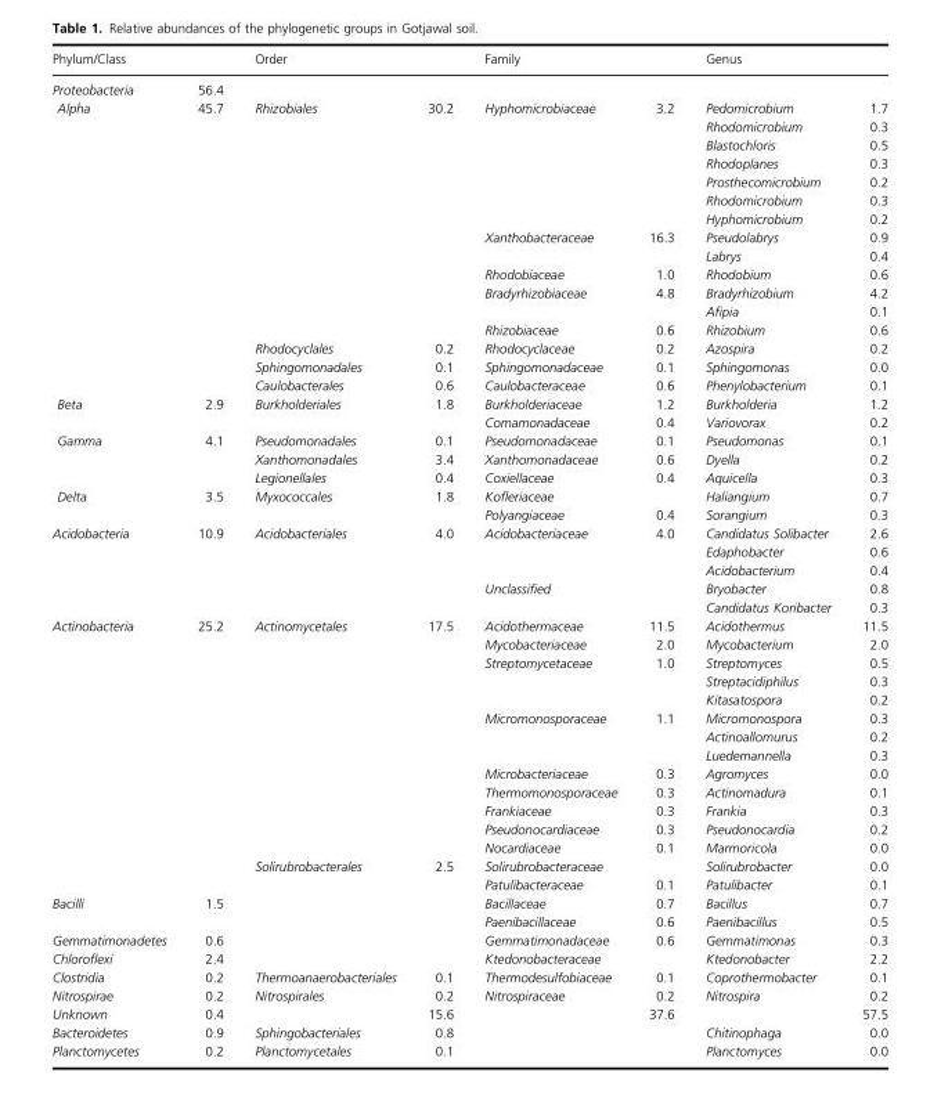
<table><thead><tr><td colspan="2">Phylum/Class</td><td colspan="2">Order</td><td colspan="2">Family</td><td colspan="2">Genus</td></tr><tr><td>Proteobacteria</td><td>56.4</td><td></td><td></td><td></td><td></td><td></td><td></td></tr></thead><tbody><tr><td rowspan="16">Alpha</td><td>45.7</td><td>Rhizobiales</td><td>30.2</td><td>Hyphomicrobiaceae</td><td>3.2</td><td>Pedomicrobium</td><td>1.7</td></tr><tr><td></td><td></td><td></td><td></td><td></td><td>Rhodomicrobium</td><td>0.3</td></tr><tr><td></td><td></td><td></td><td></td><td></td><td>Blastochloris</td><td>0.5</td></tr><tr><td></td><td></td><td></td><td></td><td></td><td>Rhodoplanes</td><td>0.3</td></tr><tr><td></td><td></td><td></td><td></td><td></td><td>Prosthecomicrobium</td><td>0.2</td></tr><tr><td></td><td></td><td></td><td></td><td></td><td>Rhodomicrobium</td><td>0.3</td></tr><tr><td></td><td></td><td></td><td></td><td></td><td>Hyphomicrobium</td><td>0.2</td></tr><tr><td></td><td></td><td></td><td>Xanthobacteraceae</td><td>16.3</td><td>Pseudolabrys</td><td>0.9</td></tr><tr><td></td><td></td><td></td><td></td><td></td><td>Labrys</td><td>0.4</td></tr><tr><td></td><td></td><td></td><td>Rhodobiaceae</td><td>1.0</td><td>Rhodobium</td><td>0.6</td></tr><tr><td></td><td></td><td></td><td>Bradyrhizobiaceae</td><td>4.8</td><td>Bradyrhizobium</td><td>4.2</td></tr><tr><td></td><td></td><td></td><td></td><td></td><td>Afipia</td><td>0.1</td></tr><tr><td></td><td></td><td></td><td>Rhizobiaceae</td><td>0.6</td><td>Rhizobium</td><td>0.6</td></tr><tr><td></td><td>Rhodocyclales</td><td>0.2</td><td>Rhodocyclaceae</td><td>0.2</td><td>Azospira</td><td>0.2</td></tr><tr><td></td><td>Sphingomonadales</td><td>0.1</td><td>Sphingomonadaceae</td><td>0.1</td><td>Sphingomonas</td><td>0.0</td></tr><tr><td></td><td>Caulobacterales</td><td>0.6</td><td>Caulobacteraceae</td><td>0.6</td><td>Phenylobacterium</td><td>0.1</td></tr><tr><td rowspan="2">Beta</td><td>2.9</td><td>Burkholderiales</td><td>1.8</td><td>Burkholderiaceae</td><td>1.2</td><td>Burkholderia</td><td>1.2</td></tr><tr><td></td><td></td><td></td><td>Comamonadaceae</td><td>0.4</td><td>Variovorax</td><td>0.2</td></tr><tr><td rowspan="3">Gamma</td><td>4.1</td><td>Pseudomonadales</td><td>0.1</td><td>Pseudomonadaceae</td><td>0.1</td><td>Pseudomonas</td><td>0.1</td></tr><tr><td></td><td>Xanthomonadales</td><td>3.4</td><td>Xanthomonadaceae</td><td>0.6</td><td>Dyella</td><td>0.2</td></tr><tr><td></td><td>Legionellales</td><td>0.4</td><td>Coxiellaceae</td><td>0.4</td><td>Aquicella</td><td>0.3</td></tr><tr><td rowspan="2">Delta</td><td>3.5</td><td>Myxococcales</td><td>1.8</td><td>Kofleriaceae</td><td></td><td>Haliangium</td><td>0.7</td></tr><tr><td></td><td></td><td></td><td>Polyangiaceae</td><td>0.4</td><td>Sorangium</td><td>0.3</td></tr><tr><td rowspan="5">Acidobacteria</td><td>10.9</td><td>Acidobacteriales</td><td>4.0</td><td>Acidobacteriaceae</td><td>4.0</td><td>Candidatus Solibacter</td><td>2.6</td></tr><tr><td></td><td></td><td></td><td></td><td></td><td>Edaphobacter</td><td>0.6</td></tr><tr><td></td><td></td><td></td><td></td><td></td><td>Acidobacterium</td><td>0.4</td></tr><tr><td></td><td></td><td></td><td>Unclassified</td><td></td><td>Bryobacter</td><td>0.8</td></tr><tr><td></td><td></td><td></td><td></td><td></td><td>Candidatus Koribacter</td><td>0.3</td></tr><tr><td rowspan="15">Actinobacteria</td><td>25.2</td><td>Actinomycetales</td><td>17.5</td><td>Acidothermaceae</td><td>11.5</td><td>Acidothermus</td><td>11.5</td></tr><tr><td></td><td></td><td></td><td>Mycobacteriaceae</td><td>2.0</td><td>Mycobacterium</td><td>2.0</td></tr><tr><td></td><td></td><td></td><td>Streptomycetaceae</td><td>1.0</td><td>Streptomyces</td><td>0.5</td></tr><tr><td></td><td></td><td></td><td></td><td></td><td>Streptacidiphilus</td><td>0.3</td></tr><tr><td></td><td></td><td></td><td></td><td></td><td>Kitasatospora</td><td>0.2</td></tr><tr><td></td><td></td><td></td><td>Micromonosporaceae</td><td>1.1</td><td>Micromonospora</td><td>0.3</td></tr><tr><td></td><td></td><td></td><td></td><td></td><td>Actinoallomurus</td><td>0.2</td></tr><tr><td></td><td></td><td></td><td></td><td></td><td>Luedemannella</td><td>0.3</td></tr><tr><td></td><td></td><td></td><td>Microbacteriaceae</td><td>0.3</td><td>Agromyces</td><td>0.0</td></tr><tr><td></td><td></td><td></td><td>Thermomonosporaceae</td><td>0.3</td><td>Actinomadura</td><td>0.1</td></tr><tr><td></td><td></td><td></td><td>Frankiaceae</td><td>0.3</td><td>Frankia</td><td>0.3</td></tr><tr><td></td><td></td><td></td><td>Pseudonocardiaceae</td><td>0.3</td><td>Pseudonocardia</td><td>0.2</td></tr><tr><td></td><td></td><td></td><td>Nocardiaceae</td><td>0.1</td><td>Marmoricola</td><td>0.0</td></tr><tr><td></td><td>Solirubrobacterales</td><td>2.5</td><td>Solirubrobacteraceae</td><td></td><td>Solirubrobacter</td><td>0.0</td></tr><tr><td></td><td></td><td></td><td>Patulibacteraceae</td><td>0.1</td><td>Patulibacter</td><td>0.1</td></tr><tr><td rowspan="2">Bacilli</td><td>1.5</td><td></td><td></td><td>Bacillaceae</td><td>0.7</td><td>Bacillus</td><td>0.7</td></tr><tr><td></td><td></td><td></td><td>Paenibacillaceae</td><td>0.6</td><td>Paenibacillus</td><td>0.5</td></tr><tr><td>Gemmatimonadetes</td><td>0.6</td><td></td><td></td><td>Gemmatimonadaceae</td><td>0.6</td><td>Gemmatimonas</td><td>0.3</td></tr><tr><td>Chloroflexi</td><td>2.4</td><td></td><td></td><td>Ktedonobacteraceae</td><td></td><td>Ktedonobacter</td><td>2.2</td></tr><tr><td>Clostridia</td><td>0.2</td><td>Thermoanaerobacteriales</td><td>0.1</td><td>Thermodesulfobiaceae</td><td>0.1</td><td>Coprothermobacter</td><td>0.1</td></tr><tr><td>Nitrospirae</td><td>0.2</td><td>Nitrospirales</td><td>0.2</td><td>Nitrospiraceae</td><td>0.2</td><td>Nitrospira</td><td>0.2</td></tr><tr><td>Unknown</td><td>0.4</td><td></td><td>15.6</td><td></td><td>37.6</td><td></td><td>57.5</td></tr><tr><td>Bacteroidetes</td><td>0.9</td><td>Sphingobacteriales</td><td>0.8</td><td></td><td></td><td>Chitinophaga</td><td>0.0</td></tr><tr><td>Planctomycetes</td><td>0.2</td><td>Planctomycetales</td><td>0.1</td><td></td><td></td><td>Planctomyces</td><td>0.0</td></tr></tbody></table>